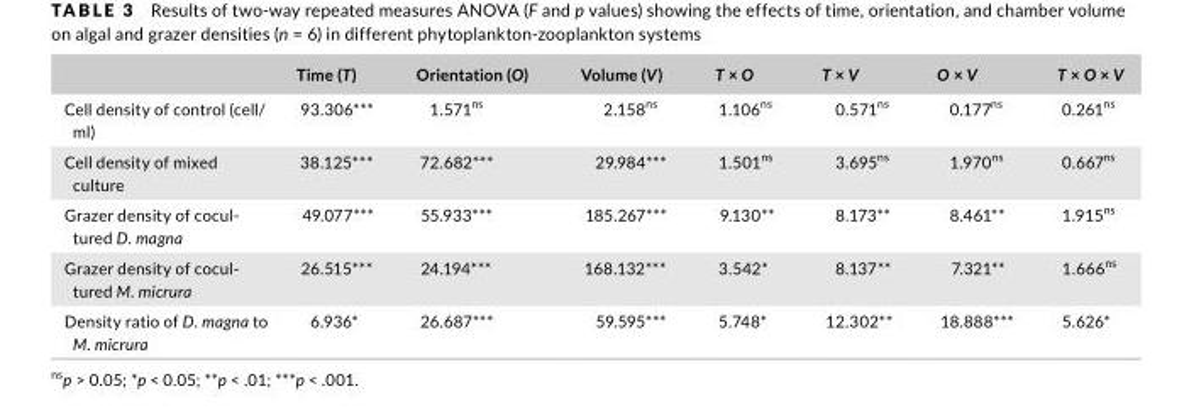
<table><thead><tr><td></td><td>Time (T)</td><td>Orientation (O)</td><td>Volume (V)</td><td>T × O</td><td>T × V</td><td>O × V</td><td>T × O × V</td></tr></thead><tbody><tr><td>Cell density of control (cell/ ml)</td><td>93.306***</td><td>1.571<sup>ns</sup></td><td>2.158<sup>ns</sup></td><td>1.106<sup>ns</sup></td><td>0.571<sup>ns</sup></td><td>0.177<sup>ns</sup></td><td>0.261<sup>ns</sup></td></tr><tr><td>Cell density of mixed culture</td><td>38.125***</td><td>72.682***</td><td>29.984***</td><td>1.501<sup>ns</sup></td><td>3.695<sup>ns</sup></td><td>1.970<sup>ns</sup></td><td>0.667<sup>ns</sup></td></tr><tr><td>Grazer density of cocul- tured D. magna</td><td>49.077***</td><td>55.933***</td><td>185.267***</td><td>9.130**</td><td>8.173**</td><td>8.461**</td><td>1.915<sup>ns</sup></td></tr><tr><td>Grazer density of cocul- tured M. micrura</td><td>26.515***</td><td>24.194***</td><td>168.132***</td><td>3.542*</td><td>8.137**</td><td>7.321**</td><td>1.666<sup>ns</sup></td></tr><tr><td>Density ratio of D. magna to M. micrura</td><td>6.936*</td><td>26.687***</td><td>59.595***</td><td>5.748*</td><td>12.302**</td><td>18.888***</td><td>5.626*</td></tr></tbody></table>